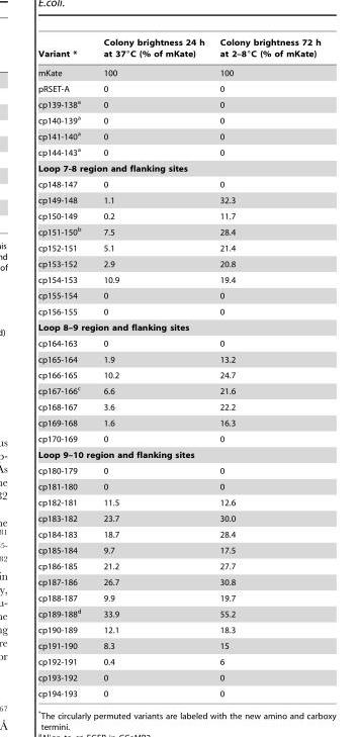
<table><thead><tr><td>Variant *</td><td>Colony brightness 24 h at 37°C (% of mKate)</td><td>Colony brightness 72 h at 2–8°C (% of mKate)</td></tr></thead><tbody><tr><td>mKate</td><td>100</td><td>100</td></tr><tr><td>pRSET-A</td><td>0</td><td>0</td></tr><tr><td>cp139-138<sup>a</sup></td><td>0</td><td>0</td></tr><tr><td>cp140-139<sup>a</sup></td><td>0</td><td>0</td></tr><tr><td>cp141-140<sup>a</sup></td><td>0</td><td>0</td></tr><tr><td>cp144-143<sup>a</sup></td><td>0</td><td>0</td></tr><tr><td colspan="3">Loop 7-8 region and flanking sites</td></tr><tr><td>cp148-147</td><td>0</td><td>0</td></tr><tr><td>cp149-148</td><td>1.1</td><td>32.3</td></tr><tr><td>cp150-149</td><td>0.2</td><td>11.7</td></tr><tr><td>cp151-150<sup>b</sup></td><td>7.5</td><td>28.4</td></tr><tr><td>cp152-151</td><td>5.1</td><td>21.4</td></tr><tr><td>cp153-152</td><td>2.9</td><td>20.8</td></tr><tr><td>cp154-153</td><td>10.9</td><td>19.4</td></tr><tr><td>cp155-154</td><td>0</td><td>0</td></tr><tr><td>cp156-155</td><td>0</td><td>0</td></tr><tr><td colspan="3">Loop 8–9 region and flanking sites</td></tr><tr><td>cp164-163</td><td>0</td><td>0</td></tr><tr><td>cp165-164</td><td>1.9</td><td>13.2</td></tr><tr><td>cp166-165</td><td>10.2</td><td>24.7</td></tr><tr><td>cp167-166<sup>c</sup></td><td>6.6</td><td>21.6</td></tr><tr><td>cp168-167</td><td>3.6</td><td>22.2</td></tr><tr><td>cp169-168</td><td>1.6</td><td>16.3</td></tr><tr><td>cp170-169</td><td>0</td><td>0</td></tr><tr><td colspan="3">Loop 9–10 region and flanking sites</td></tr><tr><td>cp180-179</td><td>0</td><td>0</td></tr><tr><td>cp181-180</td><td>0</td><td>0</td></tr><tr><td>cp182-181</td><td>11.5</td><td>12.6</td></tr><tr><td>cp183-182</td><td>23.7</td><td>30.0</td></tr><tr><td>cp184-183</td><td>18.7</td><td>28.4</td></tr><tr><td>cp185-184</td><td>9.7</td><td>17.5</td></tr><tr><td>cp186-185</td><td>21.2</td><td>27.7</td></tr><tr><td>cp187-186</td><td>26.7</td><td>30.8</td></tr><tr><td>cp188-187</td><td>9.9</td><td>19.7</td></tr><tr><td>cp189-188<sup>d</sup></td><td>33.9</td><td>55.2</td></tr><tr><td>cp190-189</td><td>12.1</td><td>18.3</td></tr><tr><td>cp191-190</td><td>8.3</td><td>15</td></tr><tr><td>cp192-191</td><td>0.4</td><td>6</td></tr><tr><td>cp193-192</td><td>0</td><td>0</td></tr><tr><td>cp194-193</td><td>0</td><td>0</td></tr></tbody></table>